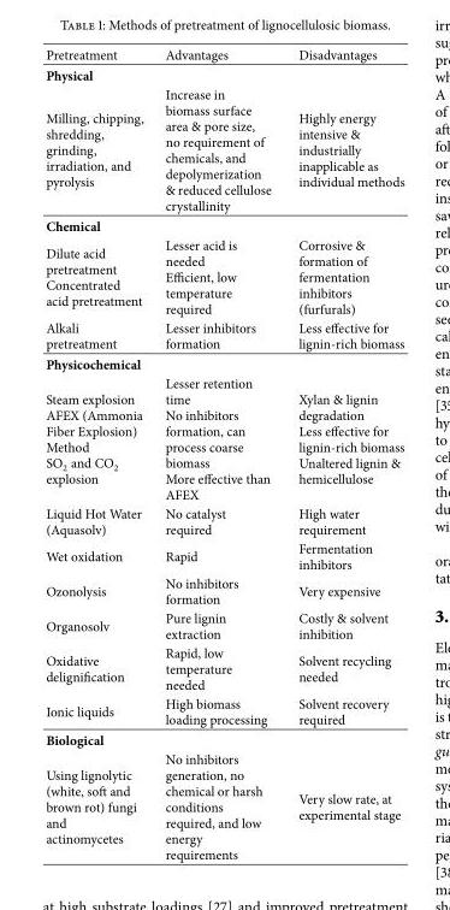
<table><thead><tr><td>Pretreatment</td><td>Advantages</td><td>Disadvantages</td></tr></thead><tbody><tr><td colspan="3">Physical</td></tr><tr><td>Milling, chipping, shredding, grinding, irradiation, and pyrolysis</td><td>Increase in biomass surface area &amp; pore size, no requirement of chemicals, and depolymerization &amp; reduced cellulose crystallinity</td><td>Highly energy intensive &amp; industrially inapplicable as individual methods</td></tr><tr><td colspan="3">Chemical</td></tr><tr><td>Dilute acid pretreatment Concentrated acid pretreatment</td><td>Lesser acid is needed Efficient, low temperature required</td><td>Corrosive &amp; formation of fermentation inhibitors (furfurals)</td></tr><tr><td>Alkali pretreatment</td><td>Lesser inhibitors formation</td><td>Less effective for lignin-rich biomass</td></tr><tr><td colspan="3">Physicochemical</td></tr><tr><td>Steam explosion AFEX (Ammonia Fiber Explosion) Method SO<sub>2</sub> and CO<sub>2</sub> explosion</td><td>Lesser retention time No inhibitors formation, can process coarse biomass More effective than AFEX</td><td>Xylan &amp; lignin degradation Less effective for lignin-rich biomass Unaltered lignin &amp; hemicellulose</td></tr><tr><td>Liquid Hot Water (Aquasolv)</td><td>No catalyst required</td><td>High water requirement</td></tr><tr><td>Wet oxidation</td><td>Rapid</td><td>Fermentation inhibitors</td></tr><tr><td>Ozonolysis</td><td>No inhibitors formation</td><td>Very expensive</td></tr><tr><td>Organosolv</td><td>Pure lignin extraction</td><td>Costly &amp; solvent inhibition</td></tr><tr><td>Oxidative delignification</td><td>Rapid, low temperature needed</td><td>Solvent recycling needed</td></tr><tr><td>Ionic liquids</td><td>High biomass loading processing</td><td>Solvent recovery required</td></tr><tr><td colspan="3">Biological</td></tr><tr><td>Using lignolytic (white, soft and brown rot) fungi and actinomycetes</td><td>No inhibitors generation, no chemical or harsh conditions required, and low energy requirements</td><td>Very slow rate, at experimental stage</td></tr></tbody></table>